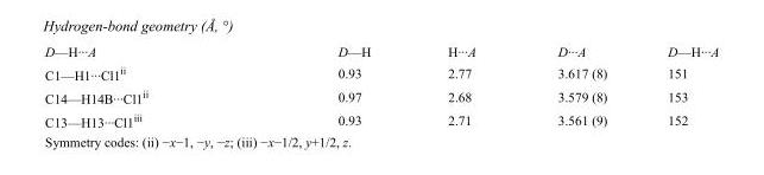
<table><tbody><tr><td>D—H···A</td><td>D—H</td><td>H···A</td><td>D···A</td><td>D—H···A</td></tr><tr><td>C1—H1···Cl1<sup>ii</sup></td><td>0.93</td><td>2.77</td><td>3.617 (8)</td><td>151</td></tr><tr><td>C14—H14B···Cl1<sup>ii</sup></td><td>0.97</td><td>2.68</td><td>3.579 (8)</td><td>153</td></tr><tr><td>C13—H13···Cl1<sup>iii</sup></td><td>0.93</td><td>2.71</td><td>3.561 (9)</td><td>152</td></tr></tbody></table>